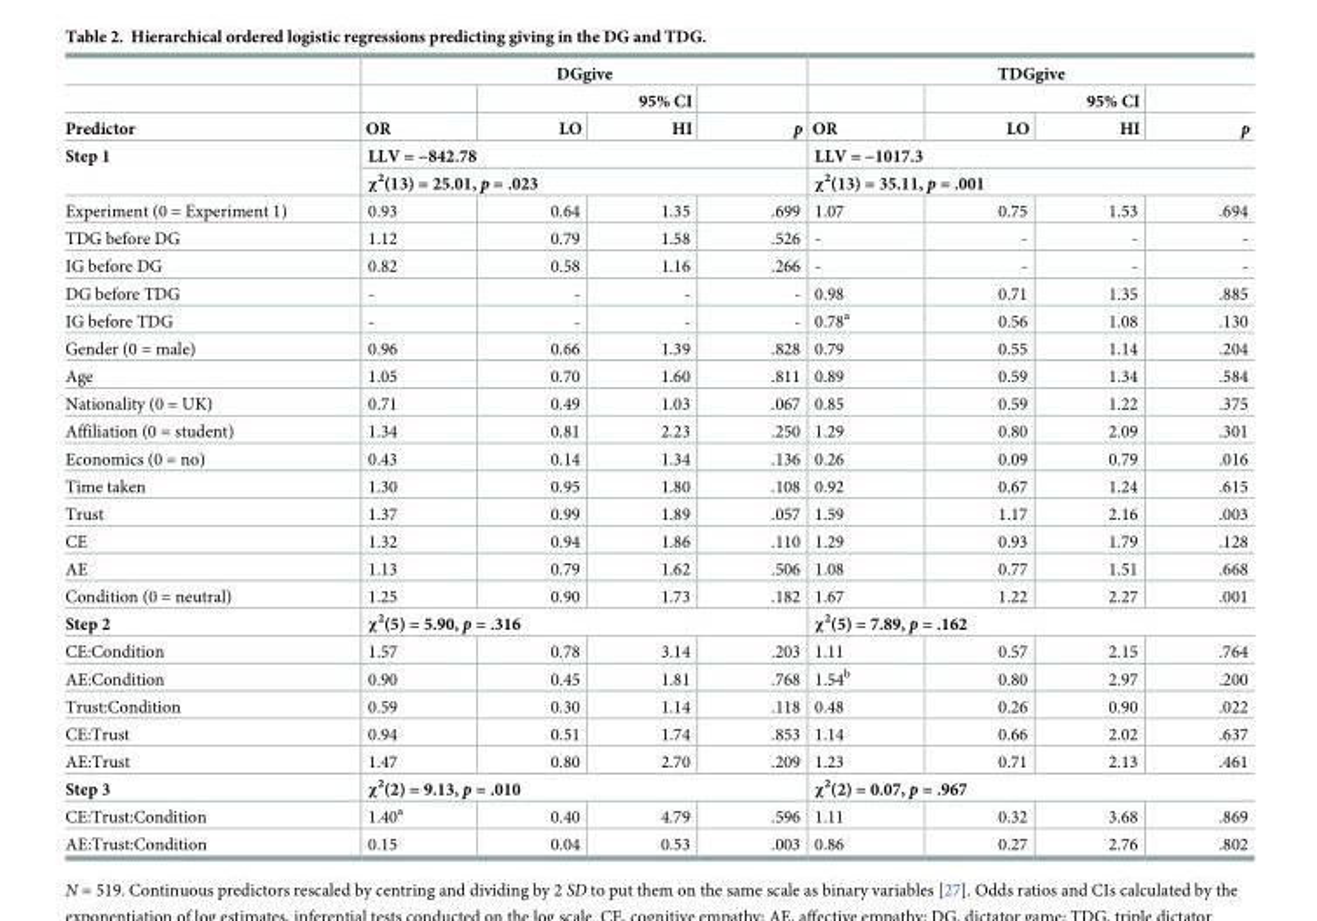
<table><thead><tr><td rowspan="3">Predictor</td><td colspan="4">DGgive</td><td colspan="4">TDGgive</td></tr><tr><td rowspan="2">OR</td><td colspan="2">95% CI</td><td rowspan="2">p</td><td rowspan="2">OR</td><td colspan="2">95% CI</td><td rowspan="2">p</td></tr><tr><td>LO</td><td>HI</td><td>LO</td><td>HI</td></tr></thead><tbody><tr><td rowspan="2">Step 1</td><td colspan="4">LLV = −842.78</td><td colspan="4">LLV = −1017.3</td></tr><tr><td colspan="4">χ<sup>2</sup>(13) = 25.01, p = .023</td><td colspan="4">χ<sup>2</sup>(13) = 35.11, p = .001</td></tr><tr><td>Experiment (0 = Experiment 1)</td><td>0.93</td><td>0.64</td><td>1.35</td><td>.699</td><td>1.07</td><td>0.75</td><td>1.53</td><td>.694</td></tr><tr><td>TDG before DG</td><td>1.12</td><td>0.79</td><td>1.58</td><td>.526</td><td>-</td><td>-</td><td>-</td><td>-</td></tr><tr><td>IG before DG</td><td>0.82</td><td>0.58</td><td>1.16</td><td>.266</td><td>-</td><td>-</td><td>-</td><td>-</td></tr><tr><td>DG before TDG</td><td>-</td><td>-</td><td>-</td><td>-</td><td>0.98</td><td>0.71</td><td>1.35</td><td>.885</td></tr><tr><td>IG before TDG</td><td>-</td><td>-</td><td>-</td><td>-</td><td>0.78<sup>a</sup></td><td>0.56</td><td>1.08</td><td>.130</td></tr><tr><td>Gender (0 = male)</td><td>0.96</td><td>0.66</td><td>1.39</td><td>.828</td><td>0.79</td><td>0.55</td><td>1.14</td><td>.204</td></tr><tr><td>Age</td><td>1.05</td><td>0.70</td><td>1.60</td><td>.811</td><td>0.89</td><td>0.59</td><td>1.34</td><td>.584</td></tr><tr><td>Nationality (0 = UK)</td><td>0.71</td><td>0.49</td><td>1.03</td><td>.067</td><td>0.85</td><td>0.59</td><td>1.22</td><td>.375</td></tr><tr><td>Affiliation (0 = student)</td><td>1.34</td><td>0.81</td><td>2.23</td><td>.250</td><td>1.29</td><td>0.80</td><td>2.09</td><td>.301</td></tr><tr><td>Economics (0 = no)</td><td>0.43</td><td>0.14</td><td>1.34</td><td>.136</td><td>0.26</td><td>0.09</td><td>0.79</td><td>.016</td></tr><tr><td>Time taken</td><td>1.30</td><td>0.95</td><td>1.80</td><td>.108</td><td>0.92</td><td>0.67</td><td>1.24</td><td>.615</td></tr><tr><td>Trust</td><td>1.37</td><td>0.99</td><td>1.89</td><td>.057</td><td>1.59</td><td>1.17</td><td>2.16</td><td>.003</td></tr><tr><td>CE</td><td>1.32</td><td>0.94</td><td>1.86</td><td>.110</td><td>1.29</td><td>0.93</td><td>1.79</td><td>.128</td></tr><tr><td>AE</td><td>1.13</td><td>0.79</td><td>1.62</td><td>.506</td><td>1.08</td><td>0.77</td><td>1.51</td><td>.668</td></tr><tr><td>Condition (0 = neutral)</td><td>1.25</td><td>0.90</td><td>1.73</td><td>.182</td><td>1.67</td><td>1.22</td><td>2.27</td><td>.001</td></tr><tr><td>Step 2</td><td colspan="4">χ<sup>2</sup>(5) = 5.90, p = .316</td><td colspan="4">χ<sup>2</sup>(5) = 7.89, p = .162</td></tr><tr><td>CE:Condition</td><td>1.57</td><td>0.78</td><td>3.14</td><td>.203</td><td>1.11</td><td>0.57</td><td>2.15</td><td>.764</td></tr><tr><td>AE:Condition</td><td>0.90</td><td>0.45</td><td>1.81</td><td>.768</td><td>1.54<sup>b</sup></td><td>0.80</td><td>2.97</td><td>.200</td></tr><tr><td>Trust:Condition</td><td>0.59</td><td>0.30</td><td>1.14</td><td>.118</td><td>0.48</td><td>0.26</td><td>0.90</td><td>.022</td></tr><tr><td>CE:Trust</td><td>0.94</td><td>0.51</td><td>1.74</td><td>.853</td><td>1.14</td><td>0.66</td><td>2.02</td><td>.637</td></tr><tr><td>AE:Trust</td><td>1.47</td><td>0.80</td><td>2.70</td><td>.209</td><td>1.23</td><td>0.71</td><td>2.13</td><td>.461</td></tr><tr><td>Step 3</td><td colspan="4">χ<sup>2</sup>(2) = 9.13, p = .010</td><td colspan="4">χ<sup>2</sup>(2) = 0.07, p = .967</td></tr><tr><td>CE:Trust:Condition</td><td>1.40<sup>a</sup></td><td>0.40</td><td>4.79</td><td>.596</td><td>1.11</td><td>0.32</td><td>3.68</td><td>.869</td></tr><tr><td>AE:Trust:Condition</td><td>0.15</td><td>0.04</td><td>0.53</td><td>.003</td><td>0.86</td><td>0.27</td><td>2.76</td><td>.802</td></tr></tbody></table>